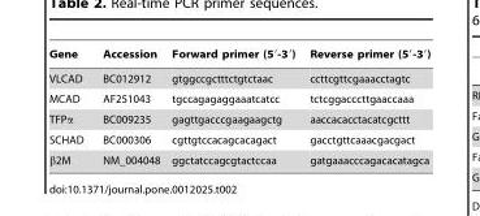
<table><thead><tr><td>Gene</td><td>Accession</td><td>Forward primer (5′-3′)</td><td>Reverse primer (5′-3′)</td></tr></thead><tbody><tr><td>VLCAD</td><td>BC012912</td><td>gtggccgctttctgtctaac</td><td>ccttcgttcgaaacctagtc</td></tr><tr><td>MCAD</td><td>AF251043</td><td>tgccagagaggaaatcatcc</td><td>tctcggacccttgaaccaaa</td></tr><tr><td>TFPα</td><td>BC009235</td><td>gagttgacccgaagaagctg</td><td>aaccacacctacatcgcttt</td></tr><tr><td>SCHAD</td><td>BC000306</td><td>cgttgtccacagcacagact</td><td>gacctgttcaaacgacgact</td></tr><tr><td>β2M</td><td>NM_004048</td><td>ggctatccagcgtactccaa</td><td>gatgaaacccagacacatagca</td></tr></tbody></table>